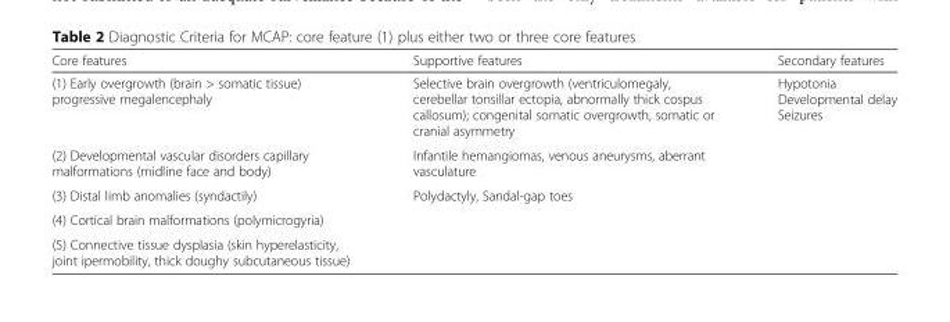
<table><thead><tr><td>Core features</td><td>Supportive features</td><td>Secondary features</td></tr></thead><tbody><tr><td>(1) Early overgrowth (brain &gt; somatic tissue) progressive megalencephaly</td><td>Selective brain overgrowth (ventriculomegaly, cerebellar tonsillar ectopia, abnormally thick cospus callosum); congenital somatic overgrowth, somatic or cranial asymmetry</td><td>Hypotonia Developmental delay Seizures</td></tr><tr><td>(2) Developmental vascular disorders capillary malformations (midline face and body)</td><td>Infantile hemangiomas, venous aneurysms, aberrant vasculature</td><td></td></tr><tr><td>(3) Distal limb anomalies (syndactily)</td><td>Polydactyly, Sandal-gap toes</td><td></td></tr><tr><td colspan="3">(4) Cortical brain malformations (polymicrogyria)</td></tr><tr><td>(5) Connective tissue dysplasia (skin hyperelasticity, joint ipermobility, thick doughy subcutaneous tissue)</td><td></td><td></td></tr></tbody></table>